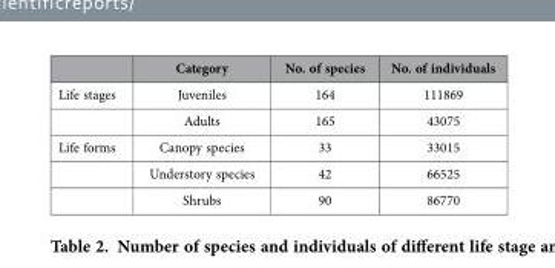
<table><thead><tr><td></td><td>Category</td><td>No. of species</td><td>No. of individuals</td></tr></thead><tbody><tr><td rowspan="2">Life stages</td><td>Juveniles</td><td>164</td><td>111869</td></tr><tr><td>Adults</td><td>165</td><td>43075</td></tr><tr><td rowspan="3">Life forms</td><td>Canopy species</td><td>33</td><td>33015</td></tr><tr><td>Understory species</td><td>42</td><td>66525</td></tr><tr><td>Shrubs</td><td>90</td><td>86770</td></tr></tbody></table>